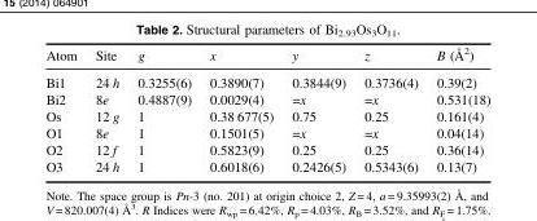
<table><thead><tr><td>Atom</td><td>Site</td><td>g</td><td>x</td><td>y</td><td>z</td><td>B (Å<sup>2</sup>)</td></tr></thead><tbody><tr><td>Bi1</td><td>24 h</td><td>0.3255(6)</td><td>0.3890(7)</td><td>0.3844(9)</td><td>0.3736(4)</td><td>0.39(2)</td></tr><tr><td>Bi2</td><td>8e</td><td>0.4887(9)</td><td>0.0029(4)</td><td>=x</td><td>=x</td><td>0.531(18)</td></tr><tr><td>Os</td><td>12 g</td><td>1</td><td>0.38 677(5)</td><td>0.75</td><td>0.25</td><td>0.161(4)</td></tr><tr><td>O1</td><td>8e</td><td>1</td><td>0.1501(5)</td><td>=x</td><td>=x</td><td>0.04(14)</td></tr><tr><td>O2</td><td>12 f</td><td>1</td><td>0.5823(9)</td><td>0.25</td><td>0.25</td><td>0.36(14)</td></tr><tr><td>O3</td><td>24 h</td><td>1</td><td>0.6018(6)</td><td>0.2426(5)</td><td>0.5343(6)</td><td>0.13(7)</td></tr></tbody></table>